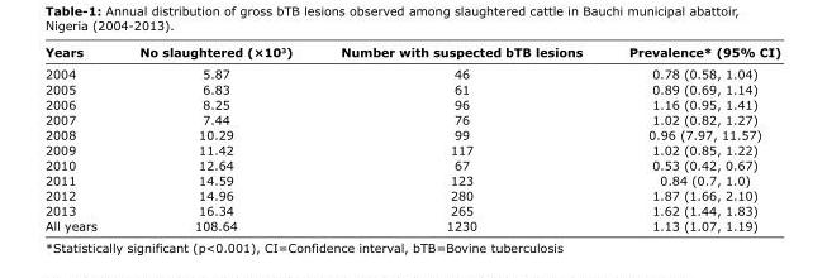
<table><thead><tr><td>Years</td><td>No slaughtered (×10<sup>3</sup>)</td><td>Number with suspected bTB lesions</td><td>Prevalence* (95% CI)</td></tr></thead><tbody><tr><td>2004</td><td>5.87</td><td>46</td><td>0.78 (0.58, 1.04)</td></tr><tr><td>2005</td><td>6.83</td><td>61</td><td>0.89 (0.69, 1.14)</td></tr><tr><td>2006</td><td>8.25</td><td>96</td><td>1.16 (0.95, 1.41)</td></tr><tr><td>2007</td><td>7.44</td><td>76</td><td>1.02 (0.82, 1.27)</td></tr><tr><td>2008</td><td>10.29</td><td>99</td><td>0.96 (7.97, 11.57)</td></tr><tr><td>2009</td><td>11.42</td><td>117</td><td>1.02 (0.85, 1.22)</td></tr><tr><td>2010</td><td>12.64</td><td>67</td><td>0.53 (0.42, 0.67)</td></tr><tr><td>2011</td><td>14.59</td><td>123</td><td>0.84 (0.7, 1.0)</td></tr><tr><td>2012</td><td>14.96</td><td>280</td><td>1.87 (1.66, 2.10)</td></tr><tr><td>2013</td><td>16.34</td><td>265</td><td>1.62 (1.44, 1.83)</td></tr><tr><td>All years</td><td>108.64</td><td>1230</td><td>1.13 (1.07, 1.19)</td></tr></tbody></table>